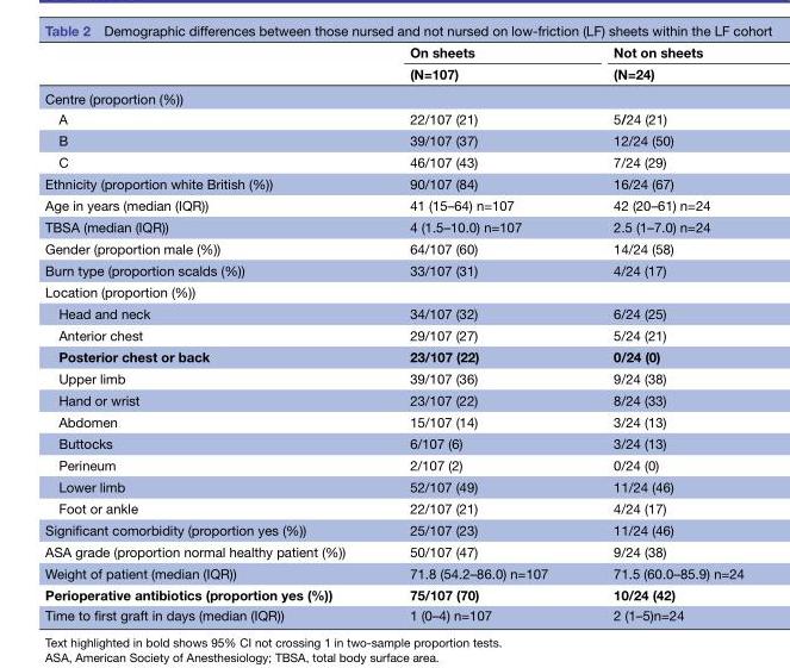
<table><thead><tr><td rowspan="2"></td><td rowspan="2">On sheets (N=107)</td><td rowspan="2">Not on sheets (N=24)</td></tr><tr></tr></thead><tbody><tr><td colspan="3">Centre (proportion (%))</td></tr><tr><td>A</td><td>22/107 (21)</td><td>5/24 (21)</td></tr><tr><td>B</td><td>39/107 (37)</td><td>12/24 (50)</td></tr><tr><td>C</td><td>46/107 (43)</td><td>7/24 (29)</td></tr><tr><td>Ethnicity (proportion white British (%))</td><td>90/107 (84)</td><td>16/24 (67)</td></tr><tr><td>Age in years (median (IQR))</td><td>41 (15–64) n=107</td><td>42 (20–61) n=24</td></tr><tr><td>TBSA (median (IQR))</td><td>4 (1.5–10.0) n=107</td><td>2.5 (1–7.0) n=24</td></tr><tr><td>Gender (proportion male (%))</td><td>64/107 (60)</td><td>14/24 (58)</td></tr><tr><td>Burn type (proportion scalds (%))</td><td>33/107 (31)</td><td>4/24 (17)</td></tr><tr><td colspan="3">Location (proportion (%))</td></tr><tr><td>Head and neck</td><td>34/107 (32)</td><td>6/24 (25)</td></tr><tr><td>Anterior chest</td><td>29/107 (27)</td><td>5/24 (21)</td></tr><tr><td>Posterior chest or back</td><td>23/107 (22)</td><td>0/24 (0)</td></tr><tr><td>Upper limb</td><td>39/107 (36)</td><td>9/24 (38)</td></tr><tr><td>Hand or wrist</td><td>23/107 (22)</td><td>8/24 (33)</td></tr><tr><td>Abdomen</td><td>15/107 (14)</td><td>3/24 (13)</td></tr><tr><td>Buttocks</td><td>6/107 (6)</td><td>3/24 (13)</td></tr><tr><td>Perineum</td><td>2/107 (2)</td><td>0/24 (0)</td></tr><tr><td>Lower limb</td><td>52/107 (49)</td><td>11/24 (46)</td></tr><tr><td>Foot or ankle</td><td>22/107 (21)</td><td>4/24 (17)</td></tr><tr><td>Significant comorbidity (proportion yes (%))</td><td>25/107 (23)</td><td>11/24 (46)</td></tr><tr><td>ASA grade (proportion normal healthy patient (%))</td><td>50/107 (47)</td><td>9/24 (38)</td></tr><tr><td>Weight of patient (median (IQR))</td><td>71.8 (54.2–86.0) n=107</td><td>71.5 (60.0–85.9) n=24</td></tr><tr><td>Perioperative antibiotics (proportion yes (%))</td><td>75/107 (70)</td><td>10/24 (42)</td></tr><tr><td>Time to first graft in days (median (IQR))</td><td>1 (0–4) n=107</td><td>2 (1–5)n=24</td></tr></tbody></table>